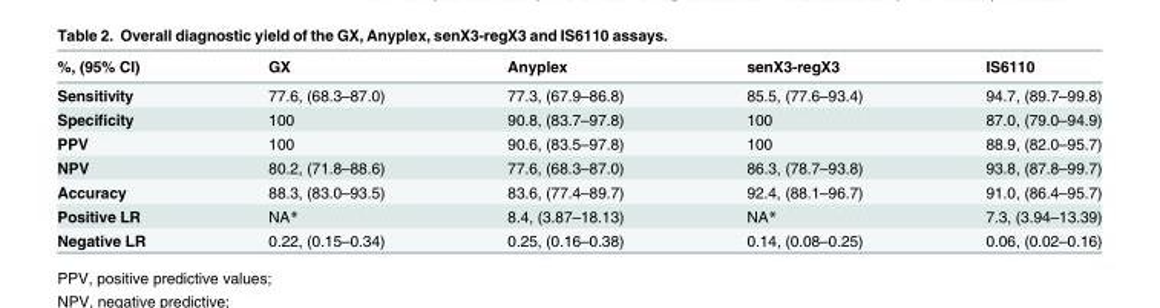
<table><thead><tr><td>%, (95% CI)</td><td>GX</td><td>Anyplex</td><td>senX3-regX3</td><td>IS6110</td></tr></thead><tbody><tr><td>Sensitivity</td><td>77.6, (68.3–87.0)</td><td>77.3, (67.9–86.8)</td><td>85.5, (77.6–93.4)</td><td>94.7, (89.7–99.8)</td></tr><tr><td>Specificity</td><td>100</td><td>90.8, (83.7–97.8)</td><td>100</td><td>87.0, (79.0–94.9)</td></tr><tr><td>PPV</td><td>100</td><td>90.6, (83.5–97.8)</td><td>100</td><td>88.9, (82.0–95.7)</td></tr><tr><td>NPV</td><td>80.2, (71.8–88.6)</td><td>77.6, (68.3–87.0)</td><td>86.3, (78.7–93.8)</td><td>93.8, (87.8–99.7)</td></tr><tr><td>Accuracy</td><td>88.3, (83.0–93.5)</td><td>83.6, (77.4–89.7)</td><td>92.4, (88.1–96.7)</td><td>91.0, (86.4–95.7)</td></tr><tr><td>Positive LR</td><td>NA*</td><td>8.4, (3.87–18.13)</td><td>NA*</td><td>7.3, (3.94–13.39)</td></tr><tr><td>Negative LR</td><td>0.22, (0.15–0.34)</td><td>0.25, (0.16–0.38)</td><td>0.14, (0.08–0.25)</td><td>0.06, (0.02–0.16)</td></tr></tbody></table>